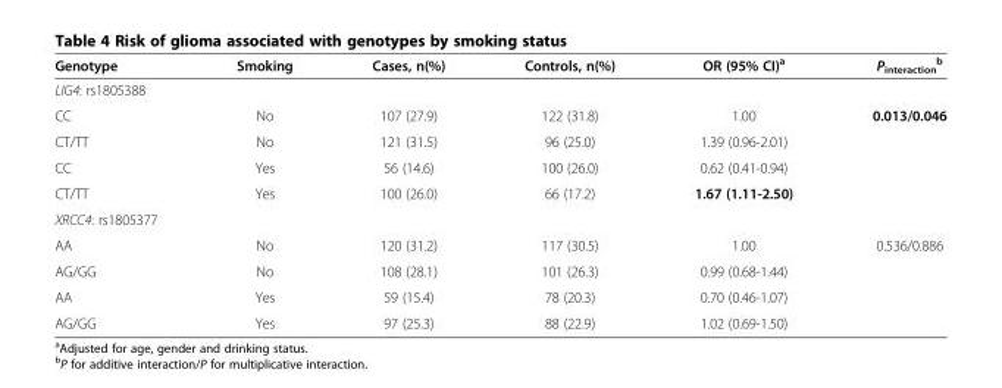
<table><thead><tr><td>Genotype</td><td>Smoking</td><td>Cases, n(%)</td><td>Controls, n(%)</td><td>OR (95% CI)<sup>a</sup></td><td>P<sub>interaction</sub> <sup>b</sup></td></tr></thead><tbody><tr><td colspan="6">LIG4: rs1805388</td></tr><tr><td>CC</td><td>No</td><td>107 (27.9)</td><td>122 (31.8)</td><td>1.00</td><td>0.013/0.046</td></tr><tr><td>CT/TT</td><td>No</td><td>121 (31.5)</td><td>96 (25.0)</td><td>1.39 (0.96-2.01)</td><td></td></tr><tr><td>CC</td><td>Yes</td><td>56 (14.6)</td><td>100 (26.0)</td><td>0.62 (0.41-0.94)</td><td></td></tr><tr><td>CT/TT</td><td>Yes</td><td>100 (26.0)</td><td>66 (17.2)</td><td>1.67 (1.11-2.50)</td><td></td></tr><tr><td colspan="6">XRCC4: rs1805377</td></tr><tr><td>AA</td><td>No</td><td>120 (31.2)</td><td>117 (30.5)</td><td>1.00</td><td>0.536/0.886</td></tr><tr><td>AG/GG</td><td>No</td><td>108 (28.1)</td><td>101 (26.3)</td><td>0.99 (0.68-1.44)</td><td></td></tr><tr><td>AA</td><td>Yes</td><td>59 (15.4)</td><td>78 (20.3)</td><td>0.70 (0.46-1.07)</td><td></td></tr><tr><td>AG/GG</td><td>Yes</td><td>97 (25.3)</td><td>88 (22.9)</td><td>1.02 (0.69-1.50)</td><td></td></tr></tbody></table>